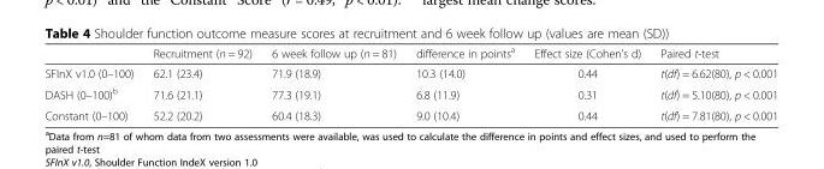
<table><thead><tr><td></td><td>Recruitment (n = 92)</td><td>6 week follow up (n = 81)</td><td>difference in points<sup>a</sup></td><td>Effect size (Cohen’s d)</td><td>Paired t-test</td></tr></thead><tbody><tr><td>SFInX v1.0 (0–100)</td><td>62.1 (23.4)</td><td>71.9 (18.9)</td><td>10.3 (14.0)</td><td>0.44</td><td>t(df) = 6.62(80), p &lt; 0.001</td></tr><tr><td>DASH (0–100)<sup>b</sup></td><td>71.6 (21.1)</td><td>77.3 (19.1)</td><td>6.8 (11.9)</td><td>0.31</td><td>t(df) = 5.10(80), p &lt; 0.001</td></tr><tr><td>Constant (0–100)</td><td>52.2 (20.2)</td><td>60.4 (18.3)</td><td>9.0 (10.4)</td><td>0.44</td><td>t(df) = 7.81(80), p &lt; 0.001</td></tr></tbody></table>